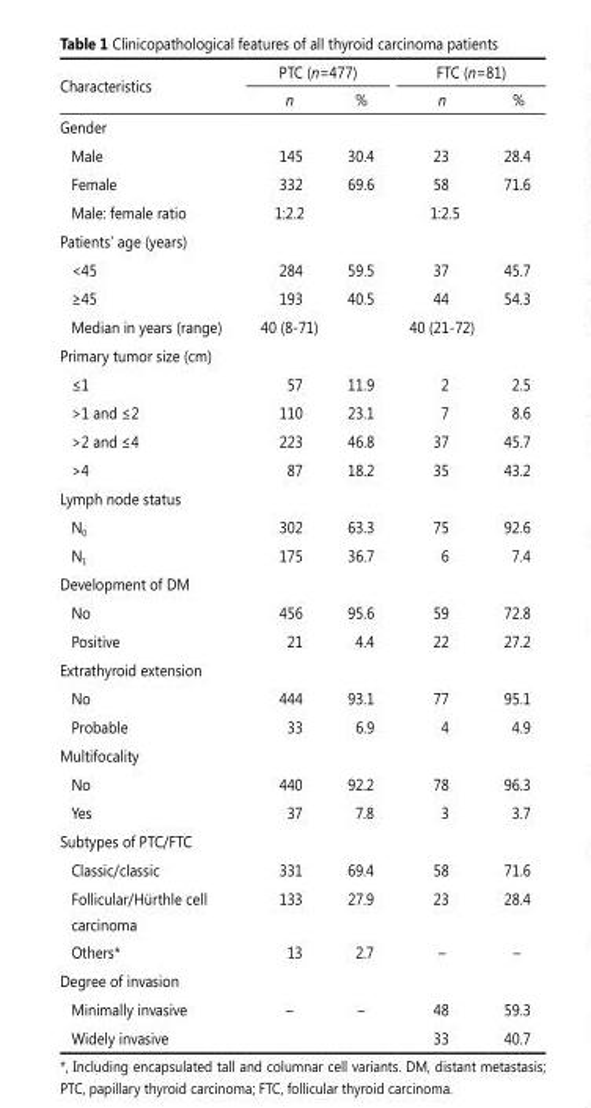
<table><thead><tr><td rowspan="2">Characteristics</td><td colspan="2">PTC (n=477)</td><td colspan="2">FTC (n=81)</td></tr><tr><td>n</td><td>%</td><td>n</td><td>%</td></tr></thead><tbody><tr><td colspan="5">Gender</td></tr><tr><td>Male</td><td>145</td><td>30.4</td><td>23</td><td>28.4</td></tr><tr><td>Female</td><td>332</td><td>69.6</td><td>58</td><td>71.6</td></tr><tr><td>Male: female ratio</td><td>1:2.2</td><td></td><td>1:2.5</td><td></td></tr><tr><td colspan="5">Patients’ age (years)</td></tr><tr><td>&lt;45</td><td>284</td><td>59.5</td><td>37</td><td>45.7</td></tr><tr><td>≥45</td><td>193</td><td>40.5</td><td>44</td><td>54.3</td></tr><tr><td>Median in years (range)</td><td>40 (8-71)</td><td></td><td>40 (21-72)</td><td></td></tr><tr><td colspan="5">Primary tumor size (cm)</td></tr><tr><td>≤1</td><td>57</td><td>11.9</td><td>2</td><td>2.5</td></tr><tr><td>&gt;1 and ≤2</td><td>110</td><td>23.1</td><td>7</td><td>8.6</td></tr><tr><td>&gt;2 and ≤4</td><td>223</td><td>46.8</td><td>37</td><td>45.7</td></tr><tr><td>&gt;4</td><td>87</td><td>18.2</td><td>35</td><td>43.2</td></tr><tr><td colspan="5">Lymph node status</td></tr><tr><td>N<sub>0</sub></td><td>302</td><td>63.3</td><td>75</td><td>92.6</td></tr><tr><td>N<sub>1</sub></td><td>175</td><td>36.7</td><td>6</td><td>7.4</td></tr><tr><td colspan="5">Development of DM</td></tr><tr><td>No</td><td>456</td><td>95.6</td><td>59</td><td>72.8</td></tr><tr><td>Positive</td><td>21</td><td>4.4</td><td>22</td><td>27.2</td></tr><tr><td colspan="5">Extrathyroid extension</td></tr><tr><td>No</td><td>444</td><td>93.1</td><td>77</td><td>95.1</td></tr><tr><td>Probable</td><td>33</td><td>6.9</td><td>4</td><td>4.9</td></tr><tr><td colspan="5">Multifocality</td></tr><tr><td>No</td><td>440</td><td>92.2</td><td>78</td><td>96.3</td></tr><tr><td>Yes</td><td>37</td><td>7.8</td><td>3</td><td>3.7</td></tr><tr><td colspan="5">Subtypes of PTC/FTC</td></tr><tr><td>Classic/classic</td><td>331</td><td>69.4</td><td>58</td><td>71.6</td></tr><tr><td>Follicular/Hürthle cell carcinoma</td><td>133</td><td>27.9</td><td>23</td><td>28.4</td></tr><tr><td>Others*</td><td>13</td><td>2.7</td><td>–</td><td>–</td></tr><tr><td colspan="5">Degree of invasion</td></tr><tr><td>Minimally invasive</td><td>–</td><td>–</td><td>48</td><td>59.3</td></tr><tr><td>Widely invasive</td><td></td><td></td><td>33</td><td>40.7</td></tr></tbody></table>